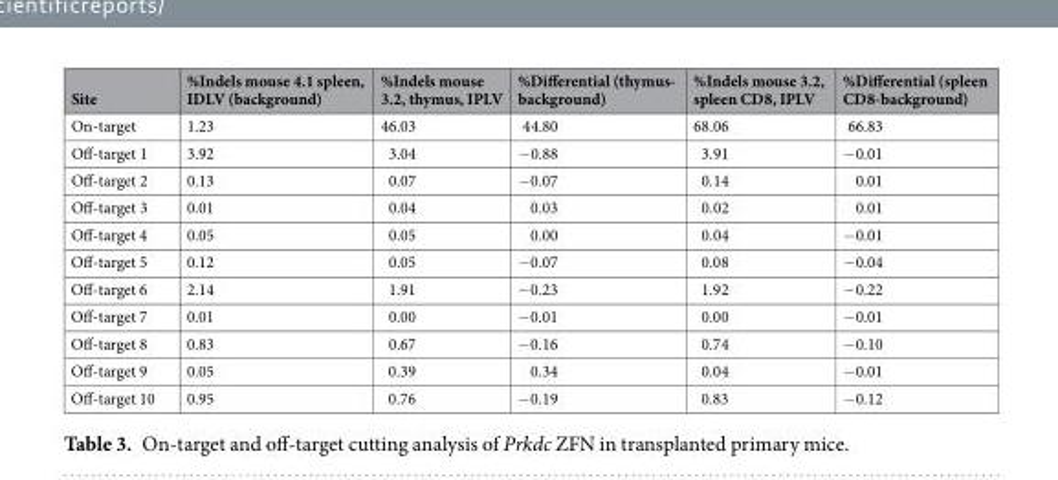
<table><thead><tr><td>Site</td><td>%Indels mouse 4.1 spleen, IDLV (background)</td><td>%Indels mouse 3.2, thymus, IPLV</td><td>%Differential (thymus- background)</td><td>%Indels mouse 3.2, spleen CD8, IPLV</td><td>%Differential (spleen CD8-background)</td></tr></thead><tbody><tr><td>On-target</td><td>1.23</td><td>46.03</td><td>44.80</td><td>68.06</td><td>66.83</td></tr><tr><td>Off-target 1</td><td>3.92</td><td>3.04</td><td>−0.88</td><td>3.91</td><td>−0.01</td></tr><tr><td>Off-target 2</td><td>0.13</td><td>0.07</td><td>−0.07</td><td>0.14</td><td>0.01</td></tr><tr><td>Off-target 3</td><td>0.01</td><td>0.04</td><td>0.03</td><td>0.02</td><td>0.01</td></tr><tr><td>Off-target 4</td><td>0.05</td><td>0.05</td><td>0.00</td><td>0.04</td><td>−0.01</td></tr><tr><td>Off-target 5</td><td>0.12</td><td>0.05</td><td>−0.07</td><td>0.08</td><td>−0.04</td></tr><tr><td>Off-target 6</td><td>2.14</td><td>1.91</td><td>−0.23</td><td>1.92</td><td>−0.22</td></tr><tr><td>Off-target 7</td><td>0.01</td><td>0.00</td><td>−0.01</td><td>0.00</td><td>−0.01</td></tr><tr><td>Off-target 8</td><td>0.83</td><td>0.67</td><td>−0.16</td><td>0.74</td><td>−0.10</td></tr><tr><td>Off-target 9</td><td>0.05</td><td>0.39</td><td>0.34</td><td>0.04</td><td>−0.01</td></tr><tr><td>Off-target 10</td><td>0.95</td><td>0.76</td><td>−0.19</td><td>0.83</td><td>−0.12</td></tr></tbody></table>